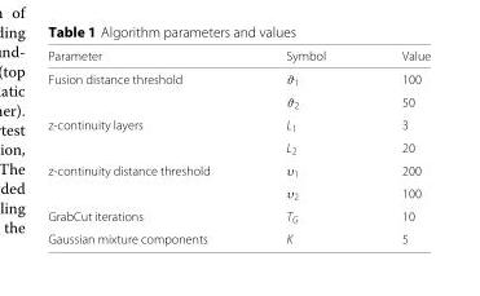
<table><thead><tr><td>Parameter</td><td>Symbol</td><td>Value</td></tr></thead><tbody><tr><td rowspan="2">Fusion distance threshold</td><td>ϑ<sub>1</sub></td><td>100</td></tr><tr><td>ϑ<sub>2</sub></td><td>50</td></tr><tr><td rowspan="2">z-continuity layers</td><td>L<sub>1</sub></td><td>3</td></tr><tr><td>L<sub>2</sub></td><td>20</td></tr><tr><td rowspan="2">z-continuity distance threshold</td><td>υ<sub>1</sub></td><td>200</td></tr><tr><td>υ<sub>2</sub></td><td>100</td></tr><tr><td>GrabCut iterations</td><td>T<sub>G</sub></td><td>10</td></tr><tr><td>Gaussian mixture components</td><td>K</td><td>5</td></tr></tbody></table>